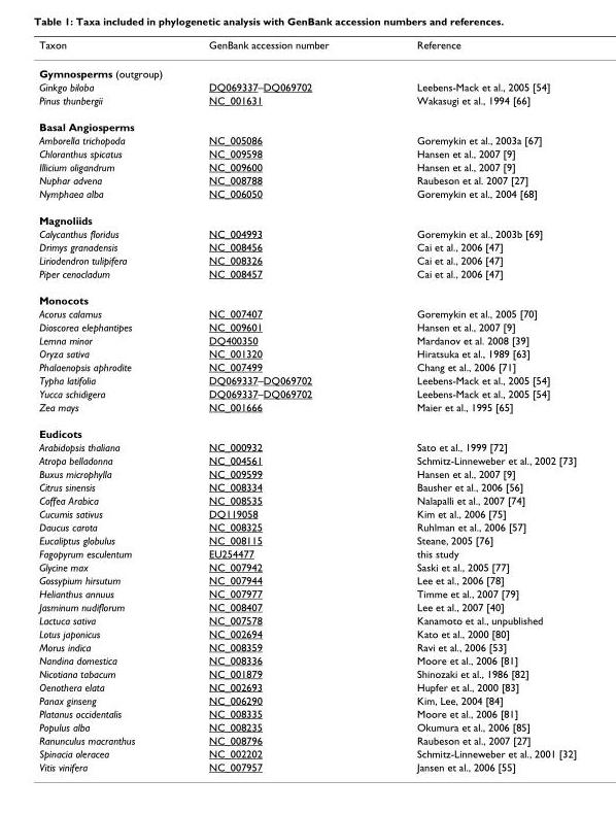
<table><thead><tr><td>Taxon</td><td>GenBank accession number</td><td>Reference</td></tr></thead><tbody><tr><td colspan="3">Gymnosperms (outgroup)</td></tr><tr><td>Ginkgo biloba</td><td>DQ069337–DQ069702</td><td>Leebens-Mack et al., 2005 [54]</td></tr><tr><td>Pinus thunbergii</td><td>NC_001631</td><td>Wakasugi et al., 1994 [66]</td></tr><tr><td colspan="3">Basal Angiosperms</td></tr><tr><td>Amborella trichopoda</td><td>NC_005086</td><td>Goremykin et al., 2003a [67]</td></tr><tr><td>Chloranthus spicatus</td><td>NC_009598</td><td>Hansen et al., 2007 [9]</td></tr><tr><td>Illicium oligandrum</td><td>NC_009600</td><td>Hansen et al., 2007 [9]</td></tr><tr><td>Nuphar advena</td><td>NC_008788</td><td>Raubeson et al. 2007 [27]</td></tr><tr><td>Nymphaea alba</td><td>NC_006050</td><td>Goremykin et al., 2004 [68]</td></tr><tr><td colspan="3">Magnoliids</td></tr><tr><td>Calycanthus floridus</td><td>NC_004993</td><td>Goremykin et al., 2003b [69]</td></tr><tr><td>Drimys granadensis</td><td>NC_008456</td><td>Cai et al., 2006 [47]</td></tr><tr><td>Liriodendron tulipifera</td><td>NC_008326</td><td>Cai et al., 2006 [47]</td></tr><tr><td>Piper cenocladum</td><td>NC_008457</td><td>Cai et al., 2006 [47]</td></tr><tr><td colspan="3">Monocots</td></tr><tr><td>Acorus calamus</td><td>NC_007407</td><td>Goremykin et al., 2005 [70]</td></tr><tr><td>Dioscorea elephantipes</td><td>NC_009601</td><td>Hansen et al., 2007 [9]</td></tr><tr><td>Lemna minor</td><td>DQ400350</td><td>Mardanov et al. 2008 [39]</td></tr><tr><td>Oryza sativa</td><td>NC_001320</td><td>Hiratsuka et al., 1989 [63]</td></tr><tr><td>Phalaenopsis aphrodite</td><td>NC_007499</td><td>Chang et al., 2006 [71]</td></tr><tr><td>Typha latifolia</td><td>DQ069337–DQ069702</td><td>Leebens-Mack et al., 2005 [54]</td></tr><tr><td>Yucca schidigera</td><td>DQ069337–DQ069702</td><td>Leebens-Mack et al., 2005 [54]</td></tr><tr><td>Zea mays</td><td>NC_001666</td><td>Maier et al., 1995 [65]</td></tr><tr><td colspan="3">Eudicots</td></tr><tr><td>Arabidopsis thaliana</td><td>NC_000932</td><td>Sato et al., 1999 [72]</td></tr><tr><td>Atropa belladonna</td><td>NC_004561</td><td>Schmitz-Linneweber et al., 2002 [73]</td></tr><tr><td>Buxus microphylla</td><td>NC_009599</td><td>Hansen et al., 2007 [9]</td></tr><tr><td>Citrus sinensis</td><td>NC_008334</td><td>Bausher et al., 2006 [56]</td></tr><tr><td>Coffea Arabica</td><td>NC_008535</td><td>Nalapalli et al., 2007 [74]</td></tr><tr><td>Cucumis sativus</td><td>DQ119058</td><td>Kim et al., 2006 [75]</td></tr><tr><td>Daucus carota</td><td>NC_008325</td><td>Ruhlman et al., 2006 [57]</td></tr><tr><td>Eucaliptus globulus</td><td>NC_008115</td><td>Steane, 2005 [76]</td></tr><tr><td>Fagopyrum esculentum</td><td>EU254477</td><td>this study</td></tr><tr><td>Glycine max</td><td>NC_007942</td><td>Saski et al., 2005 [77]</td></tr><tr><td>Gossypium hirsutum</td><td>NC_007944</td><td>Lee et al., 2006 [78]</td></tr><tr><td>Helianthus annuus</td><td>NC_007977</td><td>Timme et al., 2007 [79]</td></tr><tr><td>Jasminum nudiflorum</td><td>NC_008407</td><td>Lee et al., 2007 [40]</td></tr><tr><td>Lactuca sativa</td><td>NC_007578</td><td>Kanamoto et al., unpublished</td></tr><tr><td>Lotus japonicus</td><td>NC_002694</td><td>Kato et al., 2000 [80]</td></tr><tr><td>Morus indica</td><td>NC_008359</td><td>Ravi et al., 2006 [53]</td></tr><tr><td>Nandina domestica</td><td>NC_008336</td><td>Moore et al., 2006 [81]</td></tr><tr><td>Nicotiana tabacum</td><td>NC_001879</td><td>Shinozaki et al., 1986 [82]</td></tr><tr><td>Oenothera elata</td><td>NC_002693</td><td>Hupfer et al., 2000 [83]</td></tr><tr><td>Panax ginseng</td><td>NC_006290</td><td>Kim, Lee, 2004 [84]</td></tr><tr><td>Platanus occidentalis</td><td>NC_008335</td><td>Moore et al., 2006 [81]</td></tr><tr><td>Populus alba</td><td>NC_008235</td><td>Okumura et al., 2006 [85]</td></tr><tr><td>Ranunculus macranthus</td><td>NC_008796</td><td>Raubeson et al., 2007 [27]</td></tr><tr><td>Spinacia oleracea</td><td>NC_002202</td><td>Schmitz-Linneweber et al., 2001 [32]</td></tr><tr><td>Vitis vinifera</td><td>NC_007957</td><td>Jansen et al., 2006 [55]</td></tr></tbody></table>